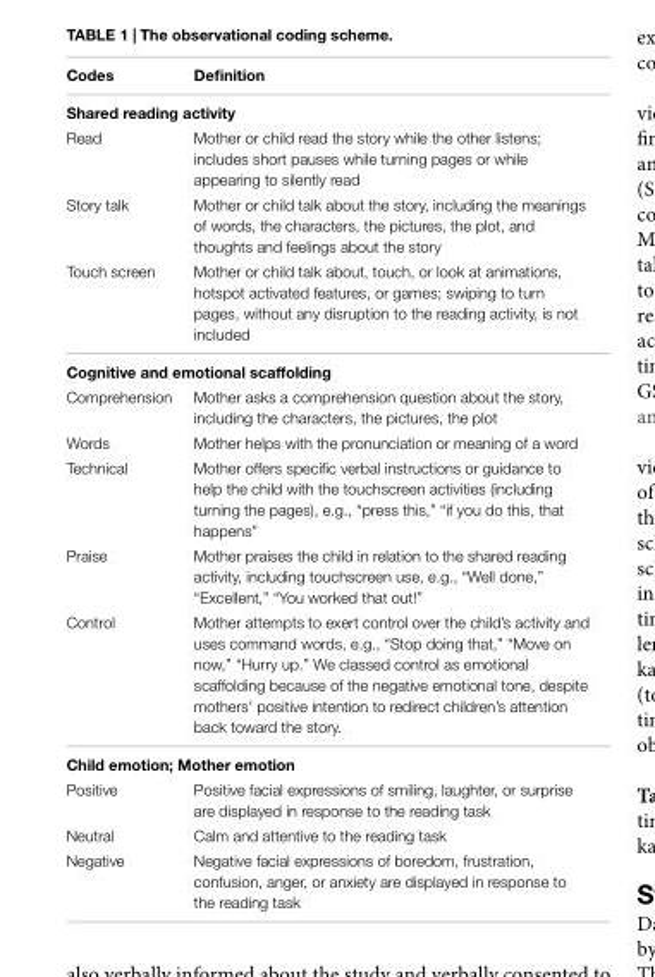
<table><thead><tr><td>Codes</td><td>Definition</td></tr></thead><tbody><tr><td colspan="2">Shared reading activity</td></tr><tr><td>Read</td><td>Mother or child read the story while the other listens; includes short pauses while turning pages or while appearing to silently read</td></tr><tr><td>Story talk</td><td>Mother or child talk about the story, including the meanings of words, the characters, the pictures, the plot, and thoughts and feelings about the story</td></tr><tr><td>Touch screen</td><td>Mother or child talk about, touch, or look at animations, hotspot activated features, or games; swiping to turn pages, without any disruption to the reading activity, is not included</td></tr><tr><td colspan="2">Cognitive and emotional scaffolding</td></tr><tr><td>Comprehension</td><td>Mother asks a comprehension question about the story, including the characters, the pictures, the plot</td></tr><tr><td>Words</td><td>Mother helps with the pronunciation or meaning of a word</td></tr><tr><td>Technical</td><td>Mother offers specific verbal instructions or guidance to help the child with the touchscreen activities (including turning the pages), e.g., “press this,” “if you do this, that happens”</td></tr><tr><td>Praise</td><td>Mother praises the child in relation to the shared reading activity, including touchscreen use, e.g., “Well done,” “Excellent,” “You worked that out!”</td></tr><tr><td>Control</td><td>Mother attempts to exert control over the child’s activity and uses command words, e.g., “Stop doing that,” “Move on now,” “Hurry up.” We classed control as emotional scaffolding because of the negative emotional tone, despite mothers’ positive intention to redirect children’s attention back toward the story.</td></tr><tr><td colspan="2">Child emotion; Mother emotion</td></tr><tr><td>Positive</td><td>Positive facial expressions of smiling, laughter, or surprise are displayed in response to the reading task</td></tr><tr><td>Neutral</td><td>Calm and attentive to the reading task</td></tr><tr><td>Negative</td><td>Negative facial expressions of boredom, frustration, confusion, anger, or anxiety are displayed in response to the reading task</td></tr></tbody></table>